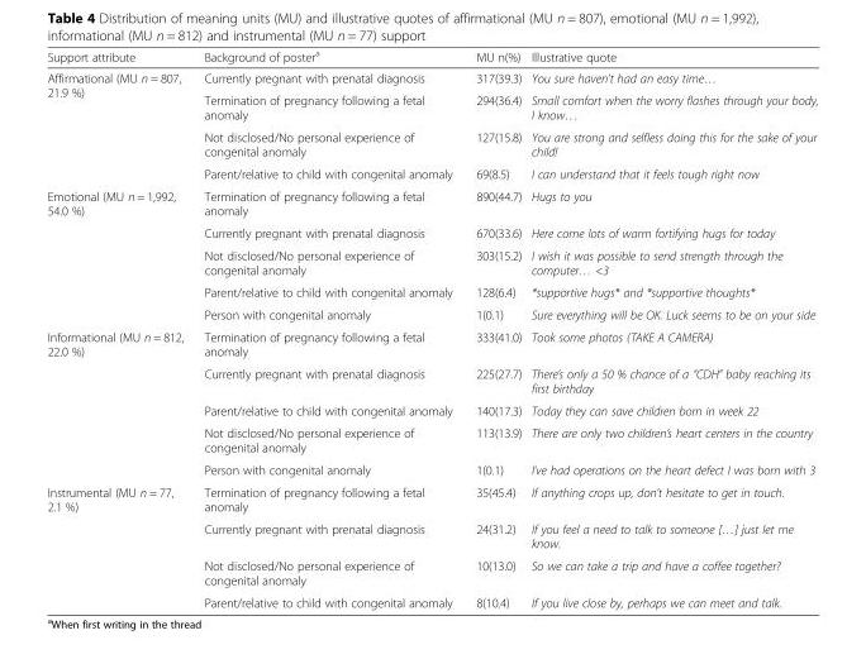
<table><thead><tr><td>Support attribute</td><td>Background of poster<sup>a</sup></td><td>MU n(%)</td><td>Illustrative quote</td></tr></thead><tbody><tr><td rowspan="4">Affirmational (MU n = 807, 21.9 %)</td><td>Currently pregnant with prenatal diagnosis</td><td>317(39.3)</td><td>You sure haven’t had an easy time…</td></tr><tr><td>Termination of pregnancy following a fetal anomaly</td><td>294(36.4)</td><td>Small comfort when the worry flashes through your body, I know…</td></tr><tr><td>Not disclosed/No personal experience of congenital anomaly</td><td>127(15.8)</td><td>You are strong and selfless doing this for the sake of your child!</td></tr><tr><td>Parent/relative to child with congenital anomaly</td><td>69(8.5)</td><td>I can understand that it feels tough right now</td></tr><tr><td rowspan="5">Emotional (MU n = 1,992, 54.0 %)</td><td>Termination of pregnancy following a fetal anomaly</td><td>890(44.7)</td><td>Hugs to you</td></tr><tr><td>Currently pregnant with prenatal diagnosis</td><td>670(33.6)</td><td>Here come lots of warm fortifying hugs for today</td></tr><tr><td>Not disclosed/No personal experience of congenital anomaly</td><td>303(15.2)</td><td>I wish it was possible to send strength through the computer… &lt;3</td></tr><tr><td>Parent/relative to child with congenital anomaly</td><td>128(6.4)</td><td>*supportive hugs* and *supportive thoughts*</td></tr><tr><td>Person with congenital anomaly</td><td>1(0.1)</td><td>Sure everything will be OK. Luck seems to be on your side</td></tr><tr><td rowspan="5">Informational (MU n = 812, 22.0 %)</td><td>Termination of pregnancy following a fetal anomaly</td><td>333(41.0)</td><td>Took some photos (TAKE A CAMERA)</td></tr><tr><td>Currently pregnant with prenatal diagnosis</td><td>225(27.7)</td><td>There’s only a 50 % chance of a “CDH” baby reaching its first birthday</td></tr><tr><td>Parent/relative to child with congenital anomaly</td><td>140(17.3)</td><td>Today they can save children born in week 22</td></tr><tr><td>Not disclosed/No personal experience of congenital anomaly</td><td>113(13.9)</td><td>There are only two children’s heart centers in the country</td></tr><tr><td>Person with congenital anomaly</td><td>1(0.1)</td><td>I’ve had operations on the heart defect I was born with 3</td></tr><tr><td rowspan="4">Instrumental (MU n = 77, 2.1 %)</td><td>Termination of pregnancy following a fetal anomaly</td><td>35(45.4)</td><td>If anything crops up, don’t hesitate to get in touch.</td></tr><tr><td>Currently pregnant with prenatal diagnosis</td><td>24(31.2)</td><td>If you feel a need to talk to someone […] just let me know.</td></tr><tr><td>Not disclosed/No personal experience of congenital anomaly</td><td>10(13.0)</td><td>So we can take a trip and have a coffee together?</td></tr><tr><td>Parent/relative to child with congenital anomaly</td><td>8(10.4)</td><td>If you live close by, perhaps we can meet and talk.</td></tr></tbody></table>